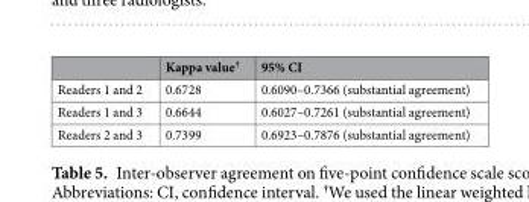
<table><thead><tr><td></td><td>Kappa value<sup>†</sup></td><td>95% CI</td></tr></thead><tbody><tr><td>Readers 1 and 2</td><td>0.6728</td><td>0.6090–0.7366 (substantial agreement)</td></tr><tr><td>Readers 1 and 3</td><td>0.6644</td><td>0.6027–0.7261 (substantial agreement)</td></tr><tr><td>Readers 2 and 3</td><td>0.7399</td><td>0.6923–0.7876 (substantial agreement)</td></tr></tbody></table>